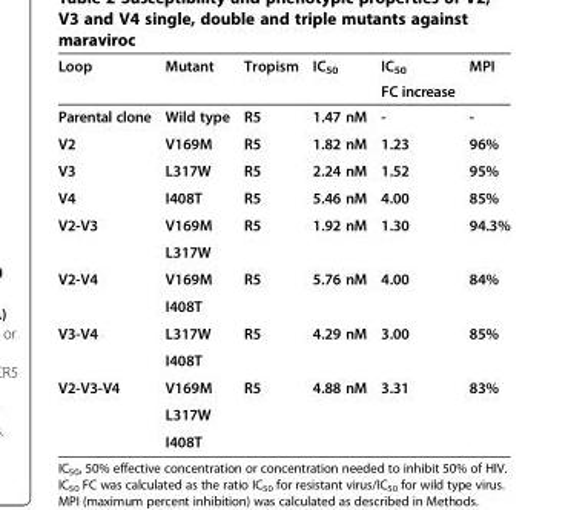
<table><thead><tr><td rowspan="2">Loop</td><td rowspan="2">Mutant</td><td rowspan="2">Tropism</td><td rowspan="2">IC<sub>50</sub></td><td rowspan="2">IC<sub>50</sub> FC increase</td><td rowspan="2">MPI</td></tr><tr></tr></thead><tbody><tr><td>Parental clone</td><td>Wild type</td><td>R5</td><td>1.47 nM</td><td>-</td><td>-</td></tr><tr><td>V2</td><td>V169M</td><td>R5</td><td>1.82 nM</td><td>1.23</td><td>96%</td></tr><tr><td>V3</td><td>L317W</td><td>R5</td><td>2.24 nM</td><td>1.52</td><td>95%</td></tr><tr><td>V4</td><td>I408T</td><td>R5</td><td>5.46 nM</td><td>4.00</td><td>85%</td></tr><tr><td rowspan="2">V2-V3</td><td>V169M</td><td rowspan="2">R5</td><td rowspan="2">1.92 nM</td><td rowspan="2">1.30</td><td rowspan="2">94.3%</td></tr><tr><td>L317W</td></tr><tr><td rowspan="2">V2-V4</td><td>V169M</td><td rowspan="2">R5</td><td rowspan="2">5.76 nM</td><td rowspan="2">4.00</td><td rowspan="2">84%</td></tr><tr><td>I408T</td></tr><tr><td rowspan="2">V3-V4</td><td>L317W</td><td rowspan="2">R5</td><td rowspan="2">4.29 nM</td><td rowspan="2">3.00</td><td rowspan="2">85%</td></tr><tr><td>I408T</td></tr><tr><td rowspan="3">V2-V3-V4</td><td>V169M</td><td rowspan="3">R5</td><td rowspan="3">4.88 nM</td><td rowspan="3">3.31</td><td rowspan="3">83%</td></tr><tr><td>L317W</td></tr><tr><td>I408T</td></tr></tbody></table>